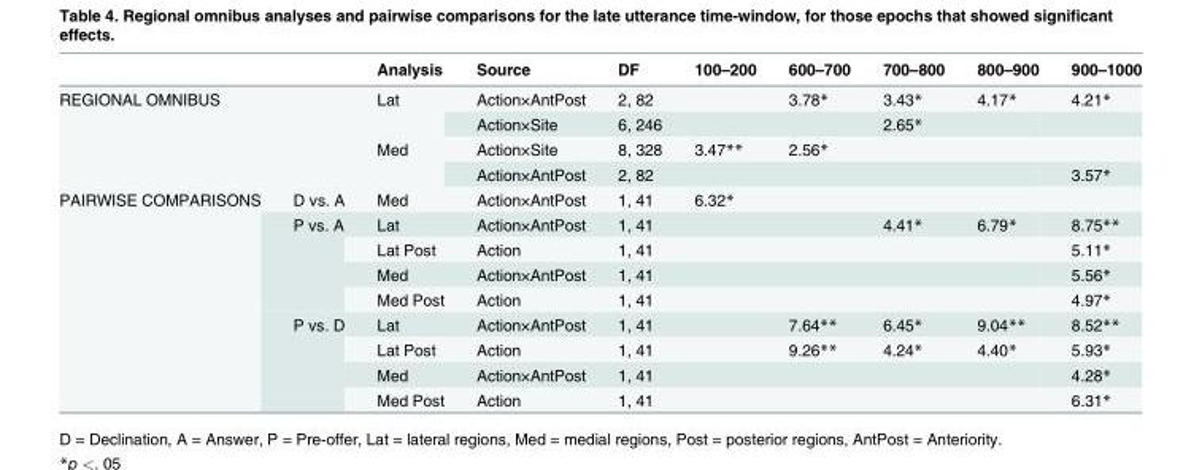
<table><thead><tr><td></td><td></td><td>Analysis</td><td>Source</td><td>DF</td><td>100–200</td><td>600–700</td><td>700–800</td><td>800–900</td><td>900–1000</td></tr></thead><tbody><tr><td rowspan="4" colspan="2">REGIONAL OMNIBUS</td><td rowspan="2">Lat</td><td>Action×AntPost</td><td>2, 82</td><td></td><td>3.78*</td><td>3.43*</td><td>4.17*</td><td>4.21*</td></tr><tr><td>Action×Site</td><td>6, 246</td><td></td><td></td><td>2.65*</td><td></td><td></td></tr><tr><td rowspan="2">Med</td><td>Action×Site</td><td>8, 328</td><td>3.47**</td><td>2.56*</td><td></td><td></td><td></td></tr><tr><td>Action×AntPost</td><td>2, 82</td><td></td><td></td><td></td><td></td><td>3.57*</td></tr><tr><td rowspan="9">PAIRWISE COMPARISONS</td><td>D vs. A</td><td>Med</td><td>Action×AntPost</td><td>1, 41</td><td>6.32*</td><td></td><td></td><td></td><td></td></tr><tr><td rowspan="4">P vs. A</td><td>Lat</td><td>Action×AntPost</td><td>1, 41</td><td></td><td></td><td>4.41*</td><td>6.79*</td><td>8.75**</td></tr><tr><td>Lat Post</td><td>Action</td><td>1, 41</td><td></td><td></td><td></td><td></td><td>5.11*</td></tr><tr><td>Med</td><td>Action×AntPost</td><td>1, 41</td><td></td><td></td><td></td><td></td><td>5.56*</td></tr><tr><td>Med Post</td><td>Action</td><td>1, 41</td><td></td><td></td><td></td><td></td><td>4.97*</td></tr><tr><td rowspan="4">P vs. D</td><td>Lat</td><td>Action×AntPost</td><td>1, 41</td><td></td><td>7.64**</td><td>6.45*</td><td>9.04**</td><td>8.52**</td></tr><tr><td>Lat Post</td><td>Action</td><td>1, 41</td><td></td><td>9.26**</td><td>4.24*</td><td>4.40*</td><td>5.93*</td></tr><tr><td>Med</td><td>Action×AntPost</td><td>1, 41</td><td></td><td></td><td></td><td></td><td>4.28*</td></tr><tr><td>Med Post</td><td>Action</td><td>1, 41</td><td></td><td></td><td></td><td></td><td>6.31*</td></tr></tbody></table>